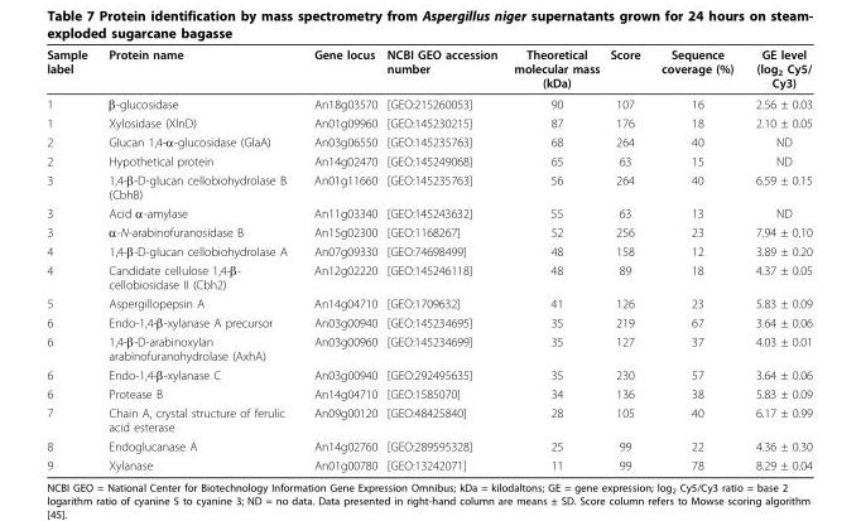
<table><thead><tr><td>Sample label</td><td>Protein name</td><td>Gene locus</td><td>NCBI GEO accession number</td><td>Theoretical molecular mass (kDa)</td><td>Score</td><td>Sequence coverage (%)</td><td>GE level (log<sub>2</sub> Cy5/ Cy3)</td></tr></thead><tbody><tr><td>1</td><td>β-glucosidase</td><td>An18g03570</td><td>[GEO:215260053]</td><td>90</td><td>107</td><td>16</td><td>2.56 ± 0.03</td></tr><tr><td>1</td><td>Xylosidase (XlnD)</td><td>An01g09960</td><td>[GEO:145230215]</td><td>87</td><td>176</td><td>18</td><td>2.10 ± 0.05</td></tr><tr><td>2</td><td>Glucan 1,4-α-glucosidase (GlaA)</td><td>An03g06550</td><td>[GEO:145235763]</td><td>68</td><td>264</td><td>40</td><td>ND</td></tr><tr><td>2</td><td>Hypothetical protein</td><td>An14g02470</td><td>[GEO:145249068]</td><td>65</td><td>63</td><td>15</td><td>ND</td></tr><tr><td>3</td><td>1,4-β-D-glucan cellobiohydrolase B (CbhB)</td><td>An01g11660</td><td>[GEO:145235763]</td><td>56</td><td>264</td><td>40</td><td>6.59 ± 0.15</td></tr><tr><td>3</td><td>Acid α-amylase</td><td>An11g03340</td><td>[GEO:145243632]</td><td>55</td><td>63</td><td>13</td><td>ND</td></tr><tr><td>3</td><td>α-N-arabinofuranosidase B</td><td>An15g02300</td><td>[GEO:1168267]</td><td>52</td><td>256</td><td>23</td><td>7.94 ± 0.10</td></tr><tr><td>4</td><td>1,4-β-D-glucan cellobiohydrolase A</td><td>An07g09330</td><td>[GEO:74698499]</td><td>48</td><td>158</td><td>12</td><td>3.89 ± 0.20</td></tr><tr><td>4</td><td>Candidate cellulose 1,4-β- cellobiosidase II (Cbh2)</td><td>An12g02220</td><td>[GEO:145246118]</td><td>48</td><td>89</td><td>18</td><td>4.37 ± 0.05</td></tr><tr><td>5</td><td>Aspergillopepsin A</td><td>An14g04710</td><td>[GEO:1709632]</td><td>41</td><td>126</td><td>23</td><td>5.83 ± 0.09</td></tr><tr><td>6</td><td>Endo-1,4-β-xylanase A precursor</td><td>An03g00940</td><td>[GEO:145234695]</td><td>35</td><td>219</td><td>67</td><td>3.64 ± 0.06</td></tr><tr><td>6</td><td>1,4-β-D-arabinoxylan arabinofuranohydrolase (AxhA)</td><td>An03g00960</td><td>[GEO:145234699]</td><td>35</td><td>127</td><td>37</td><td>4.03 ± 0.01</td></tr><tr><td>6</td><td>Endo-1,4-β-xylanase C</td><td>An03g00940</td><td>[GEO:292495635]</td><td>35</td><td>230</td><td>57</td><td>3.64 ± 0.06</td></tr><tr><td>6</td><td>Protease B</td><td>An14g04710</td><td>[GEO:1585070]</td><td>34</td><td>136</td><td>38</td><td>5.83 ± 0.09</td></tr><tr><td>7</td><td>Chain A, crystal structure of ferulic acid esterase</td><td>An09g00120</td><td>[GEO:48425840]</td><td>28</td><td>105</td><td>40</td><td>6.17 ± 0.99</td></tr><tr><td>8</td><td>Endoglucanase A</td><td>An14g02760</td><td>[GEO:289595328]</td><td>25</td><td>99</td><td>22</td><td>4.36 ± 0.30</td></tr><tr><td>9</td><td>Xylanase</td><td>An01g00780</td><td>[GEO:13242071]</td><td>11</td><td>99</td><td>78</td><td>8.29 ± 0.04</td></tr></tbody></table>